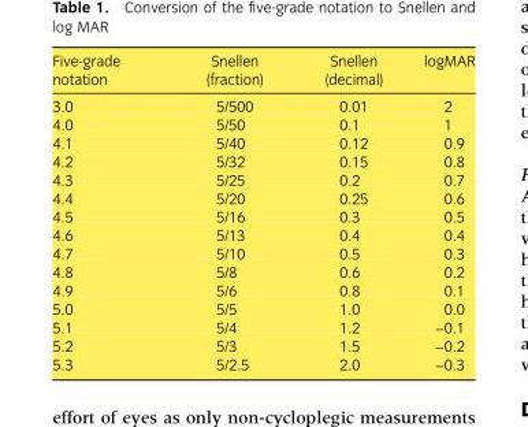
<table><thead><tr><td>Five-grade notation</td><td>Snellen (fraction)</td><td>Snellen (decimal)</td><td>logMAR</td></tr></thead><tbody><tr><td>3.0</td><td>5/500</td><td>0.01</td><td>2</td></tr><tr><td>4.0</td><td>5/50</td><td>0.1</td><td>1</td></tr><tr><td>4.1</td><td>5/40</td><td>0.12</td><td>0.9</td></tr><tr><td>4.2</td><td>5/32</td><td>0.15</td><td>0.8</td></tr><tr><td>4.3</td><td>5/25</td><td>0.2</td><td>0.7</td></tr><tr><td>4.4</td><td>5/20</td><td>0.25</td><td>0.6</td></tr><tr><td>4.5</td><td>5/16</td><td>0.3</td><td>0.5</td></tr><tr><td>4.6</td><td>5/13</td><td>0.4</td><td>0.4</td></tr><tr><td>4.7</td><td>5/10</td><td>0.5</td><td>0.3</td></tr><tr><td>4.8</td><td>5/8</td><td>0.6</td><td>0.2</td></tr><tr><td>4.9</td><td>5/6</td><td>0.8</td><td>0.1</td></tr><tr><td>5.0</td><td>5/5</td><td>1.0</td><td>0.0</td></tr><tr><td>5.1</td><td>5/4</td><td>1.2</td><td>−0.1</td></tr><tr><td>5.2</td><td>5/3</td><td>1.5</td><td>−0.2</td></tr><tr><td>5.3</td><td>5/2.5</td><td>2.0</td><td>−0.3</td></tr></tbody></table>